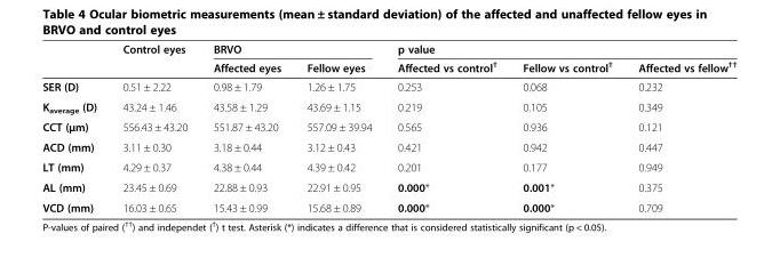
<table><thead><tr><td rowspan="2"></td><td rowspan="2">Control eyes</td><td colspan="2">BRVO</td><td colspan="3">p value</td></tr><tr><td>Affected eyes</td><td>Fellow eyes</td><td>Affected vs control<sup>†</sup></td><td>Fellow vs control<sup>†</sup></td><td>Affected vs fellow<sup>††</sup></td></tr></thead><tbody><tr><td>SER (D)</td><td>0.51 ± 2.22</td><td>0.98 ± 1.79</td><td>1.26 ± 1.75</td><td>0.253</td><td>0.068</td><td>0.232</td></tr><tr><td>K<sub>average</sub> (D)</td><td>43.24 ± 1.46</td><td>43.58 ± 1.29</td><td>43.69 ± 1.15</td><td>0.219</td><td>0.105</td><td>0.349</td></tr><tr><td>CCT (μm)</td><td>556.43 ± 43.20</td><td>551.87 ± 43.20</td><td>557.09 ± 39.94</td><td>0.565</td><td>0.936</td><td>0.121</td></tr><tr><td>ACD (mm)</td><td>3.11 ± 0.30</td><td>3.18 ± 0.44</td><td>3.12 ± 0.43</td><td>0.421</td><td>0.942</td><td>0.447</td></tr><tr><td>LT (mm)</td><td>4.29 ± 0.37</td><td>4.38 ± 0.44</td><td>4.39 ± 0.42</td><td>0.201</td><td>0.177</td><td>0.949</td></tr><tr><td>AL (mm)</td><td>23.45 ± 0.69</td><td>22.88 ± 0.93</td><td>22.91 ± 0.95</td><td>0.000*</td><td>0.001*</td><td>0.375</td></tr><tr><td>VCD (mm)</td><td>16.03 ± 0.65</td><td>15.43 ± 0.99</td><td>15.68 ± 0.89</td><td>0.000*</td><td>0.000*</td><td>0.709</td></tr></tbody></table>